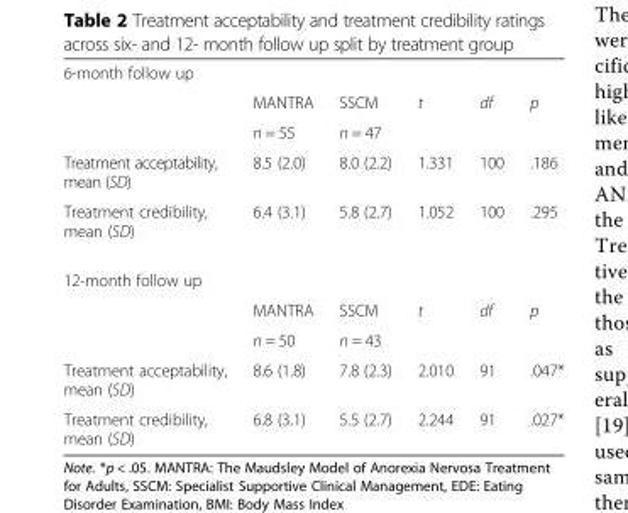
<table><tbody><tr><td colspan="6">6-month follow up</td></tr><tr><td></td><td>MANTRA</td><td>SSCM</td><td>t</td><td>df</td><td>p</td></tr><tr><td></td><td>n = 55</td><td colspan="4">n = 47</td></tr><tr><td>Treatment acceptability, mean (SD)</td><td>8.5 (2.0)</td><td>8.0 (2.2)</td><td>1.331</td><td>100</td><td>.186</td></tr><tr><td>Treatment credibility, mean (SD)</td><td>6.4 (3.1)</td><td>5.8 (2.7)</td><td>1.052</td><td>100</td><td>.295</td></tr><tr><td colspan="6">12-month follow up</td></tr><tr><td rowspan="2"></td><td>MANTRA</td><td>SSCM</td><td rowspan="2">t</td><td rowspan="2">df</td><td rowspan="2">p</td></tr><tr><td>n = 50</td><td>n = 43</td></tr><tr><td>Treatment acceptability, mean (SD)</td><td>8.6 (1.8)</td><td>7.8 (2.3)</td><td>2.010</td><td>91</td><td>.047*</td></tr><tr><td>Treatment credibility, mean (SD)</td><td>6.8 (3.1)</td><td>5.5 (2.7)</td><td>2.244</td><td>91</td><td>.027*</td></tr></tbody></table>